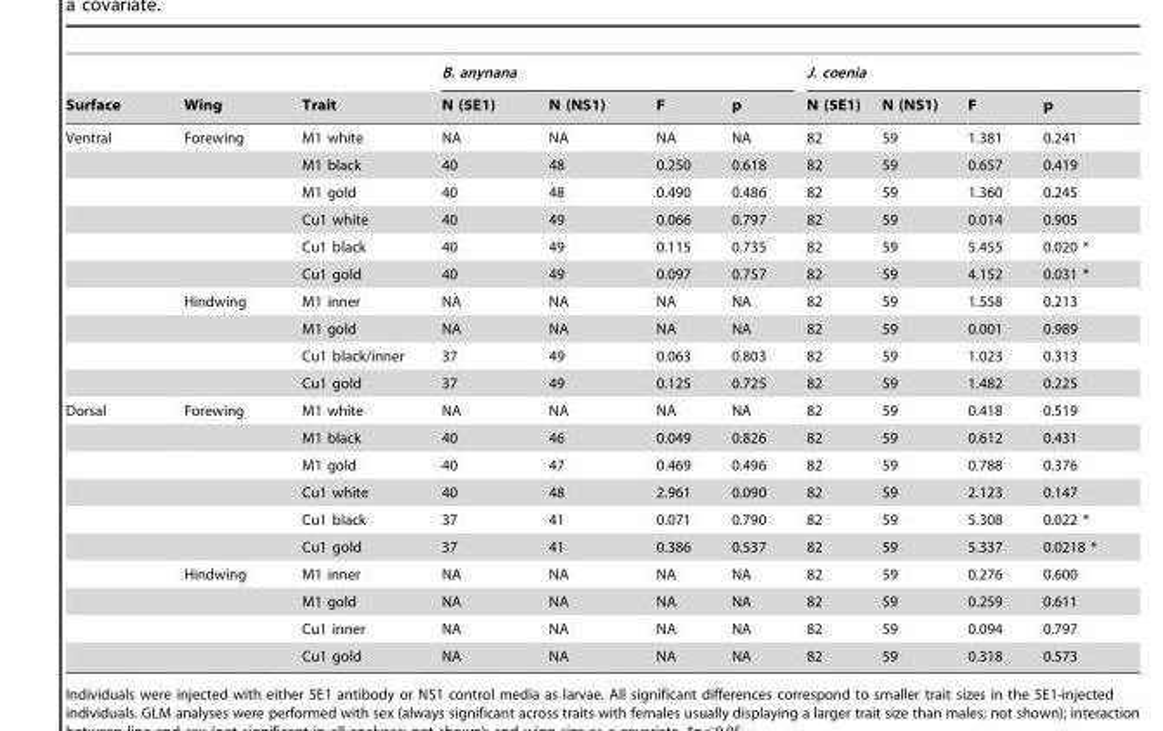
<table><thead><tr><td rowspan="2">Surface</td><td rowspan="2">Wing</td><td rowspan="2">Trait</td><td colspan="4">B. anynana</td><td colspan="4">J. coenia</td></tr><tr><td>N (5E1)</td><td>N (NS1)</td><td>F</td><td>p</td><td>N (5E1)</td><td>N (NS1)</td><td>F</td><td>p</td></tr></thead><tbody><tr><td rowspan="10">Ventral</td><td>Forewing</td><td>M1 white</td><td>NA</td><td>NA</td><td>NA</td><td>NA</td><td>82</td><td>59</td><td>1.381</td><td>0.241</td></tr><tr><td></td><td>M1 black</td><td>40</td><td>48</td><td>0.250</td><td>0.618</td><td>82</td><td>59</td><td>0.657</td><td>0.419</td></tr><tr><td></td><td>M1 gold</td><td>40</td><td>48</td><td>0.490</td><td>0.486</td><td>82</td><td>59</td><td>1.360</td><td>0.245</td></tr><tr><td></td><td>Cu1 white</td><td>40</td><td>49</td><td>0.066</td><td>0.797</td><td>82</td><td>59</td><td>0.014</td><td>0.905</td></tr><tr><td></td><td>Cu1 black</td><td>40</td><td>49</td><td>0.115</td><td>0.735</td><td>82</td><td>59</td><td>5.455</td><td>0.020 *</td></tr><tr><td></td><td>Cu1 gold</td><td>40</td><td>49</td><td>0.097</td><td>0.757</td><td>82</td><td>59</td><td>4.152</td><td>0.031 *</td></tr><tr><td>Hindwing</td><td>M1 inner</td><td>NA</td><td>NA</td><td>NA</td><td>NA</td><td>82</td><td>59</td><td>1.558</td><td>0.213</td></tr><tr><td></td><td>M1 gold</td><td>NA</td><td>NA</td><td>NA</td><td>NA</td><td>82</td><td>59</td><td>0.001</td><td>0.989</td></tr><tr><td></td><td>Cu1 black/inner</td><td>37</td><td>49</td><td>0.063</td><td>0.803</td><td>82</td><td>59</td><td>1.023</td><td>0.313</td></tr><tr><td></td><td>Cu1 gold</td><td>37</td><td>49</td><td>0.125</td><td>0.725</td><td>82</td><td>59</td><td>1.482</td><td>0.225</td></tr><tr><td rowspan="10">Dorsal</td><td>Forewing</td><td>M1 white</td><td>NA</td><td>NA</td><td>NA</td><td>NA</td><td>82</td><td>59</td><td>0.418</td><td>0.519</td></tr><tr><td></td><td>M1 black</td><td>40</td><td>46</td><td>0.049</td><td>0.826</td><td>82</td><td>59</td><td>0.612</td><td>0.431</td></tr><tr><td></td><td>M1 gold</td><td>40</td><td>47</td><td>0.469</td><td>0.496</td><td>82</td><td>59</td><td>0.788</td><td>0.376</td></tr><tr><td></td><td>Cu1 white</td><td>40</td><td>48</td><td>2.961</td><td>0.090</td><td>82</td><td>59</td><td>2.123</td><td>0.147</td></tr><tr><td></td><td>Cu1 black</td><td>37</td><td>41</td><td>0.071</td><td>0.790</td><td>82</td><td>59</td><td>5.308</td><td>0.022 *</td></tr><tr><td></td><td>Cu1 gold</td><td>37</td><td>41</td><td>0.386</td><td>0.537</td><td>82</td><td>59</td><td>5.337</td><td>0.0218 *</td></tr><tr><td>Hindwing</td><td>M1 inner</td><td>NA</td><td>NA</td><td>NA</td><td>NA</td><td>82</td><td>59</td><td>0.276</td><td>0.600</td></tr><tr><td></td><td>M1 gold</td><td>NA</td><td>NA</td><td>NA</td><td>NA</td><td>82</td><td>59</td><td>0.259</td><td>0.611</td></tr><tr><td></td><td>Cu1 inner</td><td>NA</td><td>NA</td><td>NA</td><td>NA</td><td>82</td><td>59</td><td>0.094</td><td>0.797</td></tr><tr><td></td><td>Cu1 gold</td><td>NA</td><td>NA</td><td>NA</td><td>NA</td><td>82</td><td>59</td><td>0.318</td><td>0.573</td></tr></tbody></table>